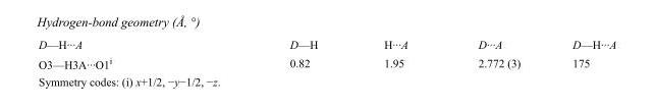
<table><tbody><tr><td>D—H···A</td><td>D—H</td><td>H···A</td><td>D···A</td><td>D—H···A</td></tr><tr><td>O3—H3A···O1<sup>i</sup></td><td>0.82</td><td>1.95</td><td>2.772 (3)</td><td>175</td></tr></tbody></table>